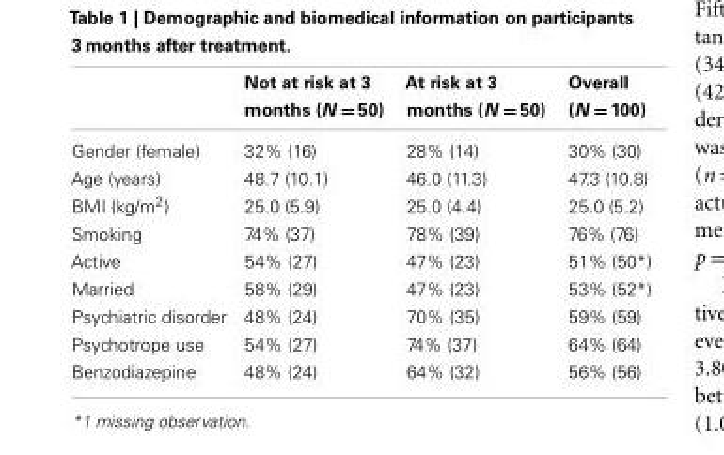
<table><thead><tr><td></td><td>Not at risk at 3 months (N = 50)</td><td>At risk at 3 months (N = 50)</td><td>Overall (N = 100)</td></tr></thead><tbody><tr><td>Gender (female)</td><td>32% (16)</td><td>28% (14)</td><td>30% (30)</td></tr><tr><td>Age (years)</td><td>48.7 (10.1)</td><td>46.0 (11.3)</td><td>47.3 (10.8)</td></tr><tr><td>BMI (kg/m<sup>2</sup>)</td><td>25.0 (5.9)</td><td>25.0 (4.4)</td><td>25.0 (5.2)</td></tr><tr><td>Smoking</td><td>74% (37)</td><td>78% (39)</td><td>76% (76)</td></tr><tr><td>Active</td><td>54% (27)</td><td>47% (23)</td><td>51% (50*)</td></tr><tr><td>Married</td><td>58% (29)</td><td>47% (23)</td><td>53% (52*)</td></tr><tr><td>Psychiatric disorder</td><td>48% (24)</td><td>70% (35)</td><td>59% (59)</td></tr><tr><td>Psychotrope use</td><td>54% (27)</td><td>74% (37)</td><td>64% (64)</td></tr><tr><td>Benzodiazepine</td><td>48% (24)</td><td>64% (32)</td><td>56% (56)</td></tr></tbody></table>